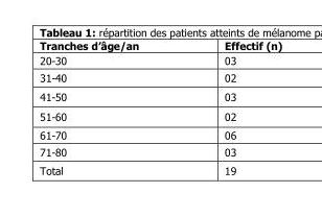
<table><thead><tr><td>Tranches d’âge/an</td><td>Effectif (n)</td></tr></thead><tbody><tr><td>20-30</td><td>03</td></tr><tr><td>31-40</td><td>02</td></tr><tr><td>41-50</td><td>03</td></tr><tr><td>51-60</td><td>02</td></tr><tr><td>61-70</td><td>06</td></tr><tr><td>71-80</td><td>03</td></tr><tr><td>Total</td><td>19</td></tr></tbody></table>